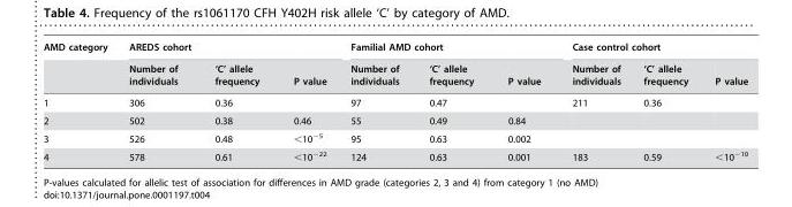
<table><thead><tr><td rowspan="2">AMD category</td><td colspan="3">AREDS cohort</td><td colspan="3">Familial AMD cohort</td><td colspan="3">Case control cohort</td></tr><tr><td>Number of individuals</td><td>‘C’ allele frequency</td><td>P value</td><td>Number of individuals</td><td>‘C’ allele frequency</td><td>P value</td><td>Number of individuals</td><td>‘C’ allele frequency</td><td>P value</td></tr></thead><tbody><tr><td>1</td><td>306</td><td>0.36</td><td></td><td>97</td><td>0.47</td><td></td><td>211</td><td>0.36</td><td></td></tr><tr><td>2</td><td>502</td><td>0.38</td><td>0.46</td><td>55</td><td>0.49</td><td>0.84</td><td></td><td></td><td></td></tr><tr><td>3</td><td>526</td><td>0.48</td><td>&lt;10<sup>−5</sup></td><td>95</td><td>0.63</td><td>0.002</td><td></td><td></td><td></td></tr><tr><td>4</td><td>578</td><td>0.61</td><td>&lt;10<sup>−22</sup></td><td>124</td><td>0.63</td><td>0.001</td><td>183</td><td>0.59</td><td>&lt;10<sup>−10</sup></td></tr></tbody></table>